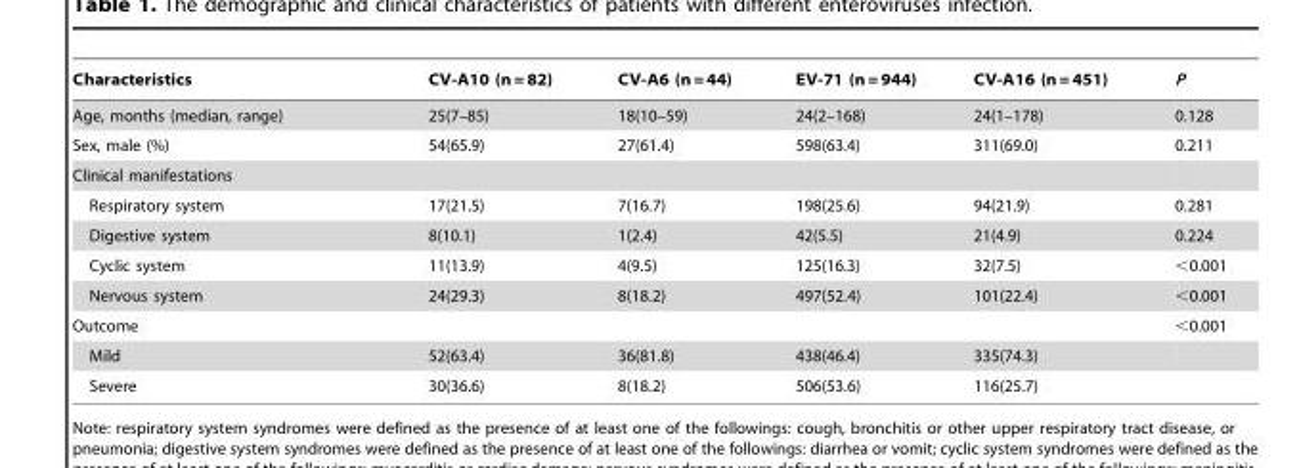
<table><thead><tr><td>Characteristics</td><td>CV-A10 (n = 82)</td><td>CV-A6 (n = 44)</td><td>EV-71 (n = 944)</td><td>CV-A16 (n = 451)</td><td>P</td></tr></thead><tbody><tr><td>Age, months (median, range)</td><td>25(7–85)</td><td>18(10–59)</td><td>24(2–168)</td><td>24(1–178)</td><td>0.128</td></tr><tr><td>Sex, male (%)</td><td>54(65.9)</td><td>27(61.4)</td><td>598(63.4)</td><td>311(69.0)</td><td>0.211</td></tr><tr><td colspan="6">Clinical manifestations</td></tr><tr><td>Respiratory system</td><td>17(21.5)</td><td>7(16.7)</td><td>198(25.6)</td><td>94(21.9)</td><td>0.281</td></tr><tr><td>Digestive system</td><td>8(10.1)</td><td>1(2.4)</td><td>42(5.5)</td><td>21(4.9)</td><td>0.224</td></tr><tr><td>Cyclic system</td><td>11(13.9)</td><td>4(9.5)</td><td>125(16.3)</td><td>32(7.5)</td><td>&lt;0.001</td></tr><tr><td>Nervous system</td><td>24(29.3)</td><td>8(18.2)</td><td>497(52.4)</td><td>101(22.4)</td><td>&lt;0.001</td></tr><tr><td>Outcome</td><td></td><td></td><td></td><td></td><td>&lt;0.001</td></tr><tr><td>Mild</td><td>52(63.4)</td><td>36(81.8)</td><td>438(46.4)</td><td>335(74.3)</td><td></td></tr><tr><td>Severe</td><td>30(36.6)</td><td>8(18.2)</td><td>506(53.6)</td><td>116(25.7)</td><td></td></tr></tbody></table>